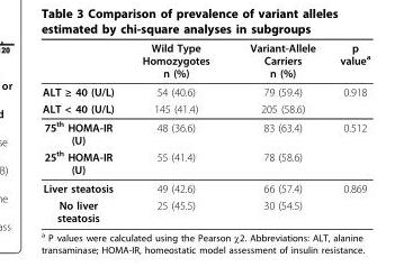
<table><thead><tr><td></td><td>Wild Type Homozygotes n (%)</td><td>Variant-Allele Carriers n (%)</td><td>p value<sup>a</sup></td></tr></thead><tbody><tr><td>ALT ≥ 40 (U/L)</td><td>54 (40.6)</td><td>79 (59.4)</td><td>0.918</td></tr><tr><td>ALT &lt; 40 (U/L)</td><td>145 (41.4)</td><td>205 (58.6)</td><td></td></tr><tr><td>75<sup>th</sup> HOMA-IR (U)</td><td>48 (36.6)</td><td>83 (63.4)</td><td>0.512</td></tr><tr><td>25<sup>th</sup> HOMA-IR (U)</td><td>55 (41.4)</td><td>78 (58.6)</td><td></td></tr><tr><td>Liver steatosis</td><td>49 (42.6)</td><td>66 (57.4)</td><td>0.869</td></tr><tr><td>No liver steatosis</td><td>25 (45.5)</td><td>30 (54.5)</td><td></td></tr></tbody></table>